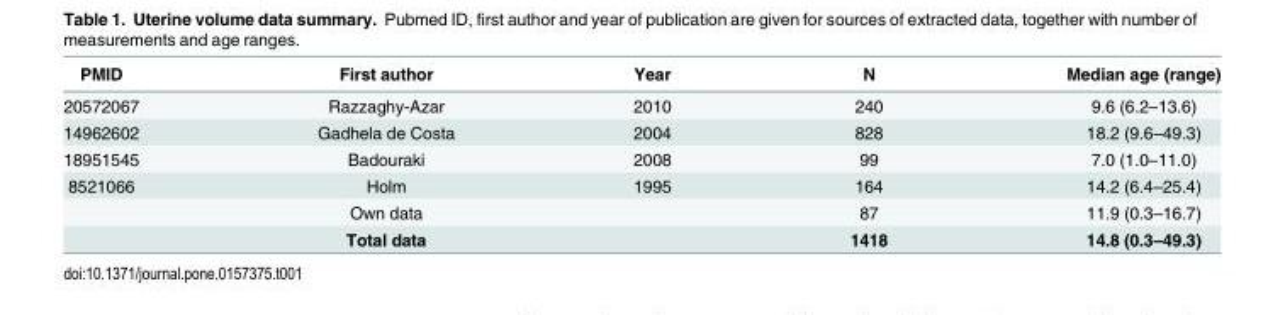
<table><thead><tr><td>PMID</td><td>First author</td><td>Year</td><td>N</td><td>Median age (range)</td></tr></thead><tbody><tr><td>20572067</td><td>Razzaghy-Azar</td><td>2010</td><td>240</td><td>9.6 (6.2–13.6)</td></tr><tr><td>14962602</td><td>Gadhela de Costa</td><td>2004</td><td>828</td><td>18.2 (9.6–49.3)</td></tr><tr><td>18951545</td><td>Badouraki</td><td>2008</td><td>99</td><td>7.0 (1.0–11.0)</td></tr><tr><td rowspan="3">8521066</td><td>Holm</td><td>1995</td><td>164</td><td>14.2 (6.4–25.4)</td></tr><tr><td>Own data</td><td></td><td>87</td><td>11.9 (0.3–16.7)</td></tr><tr><td>Total data</td><td></td><td>1418</td><td>14.8 (0.3–49.3)</td></tr></tbody></table>